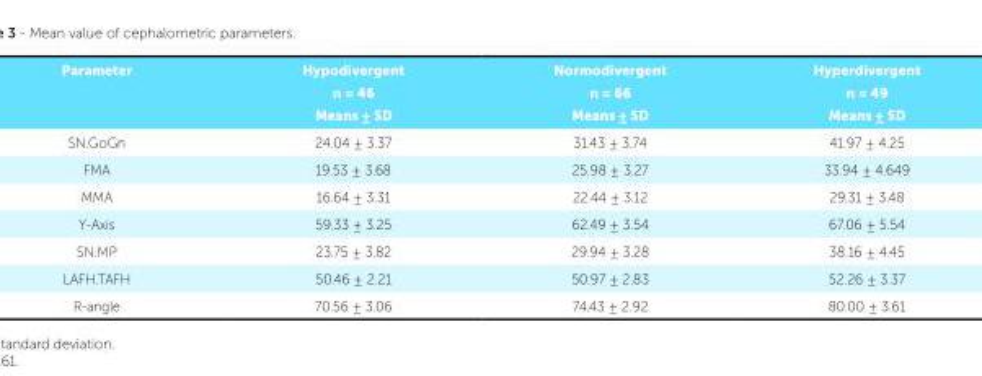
<table><tbody><tr><td>Parameter</td><td>Hypodivergent n = 46 Means ± SD</td><td>Normodivergent n = 66 Means ± SD</td><td>Hyperdivergent n = 49 Means ± SD</td></tr><tr><td>SN.GoGn</td><td>24.04 ± 3.37</td><td>31.43 ± 3.74</td><td>41.97 ± 4.25</td></tr><tr><td>FMA</td><td>19.53 ± 3.68</td><td>25.98 ± 3.27</td><td>33.94 ± 4.649</td></tr><tr><td>MMA</td><td>16.64 ± 3.31</td><td>22.44 ± 3.12</td><td>29.31 ± 3.48</td></tr><tr><td>Y-Axis</td><td>59.33 ± 3.25</td><td>62.49 ± 3.54</td><td>67.06 ± 5.54</td></tr><tr><td>SN.MP</td><td>23.75 ± 3.82</td><td>29.94 ± 3.28</td><td>38.16 ± 4.45</td></tr><tr><td>LAFH.TAFH</td><td>50.46 ± 2.21</td><td>50.97 ± 2.83</td><td>52.26 ± 3.37</td></tr><tr><td>R-angle</td><td>70.56 ± 3.06</td><td>74.43 ± 2.92</td><td>80.00 ± 3.61</td></tr></tbody></table>